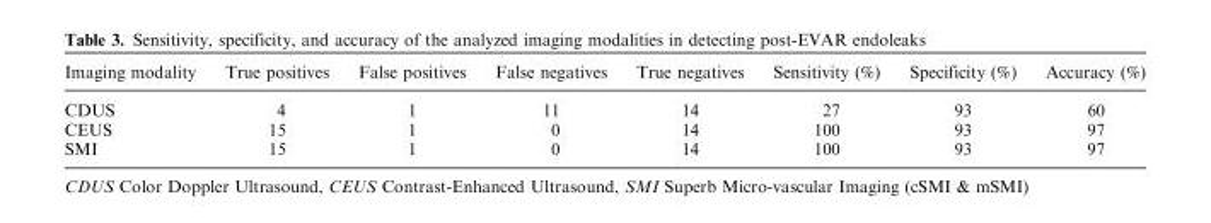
<table><thead><tr><td>Imaging modality</td><td>True positives</td><td>False positives</td><td>False negatives</td><td>True negatives</td><td>Sensitivity (%)</td><td>Specificity (%)</td><td>Accuracy (%)</td></tr></thead><tbody><tr><td>CDUS</td><td>4</td><td>1</td><td>11</td><td>14</td><td>27</td><td>93</td><td>60</td></tr><tr><td>CEUS</td><td>15</td><td>1</td><td>0</td><td>14</td><td>100</td><td>93</td><td>97</td></tr><tr><td>SMI</td><td>15</td><td>1</td><td>0</td><td>14</td><td>100</td><td>93</td><td>97</td></tr></tbody></table>